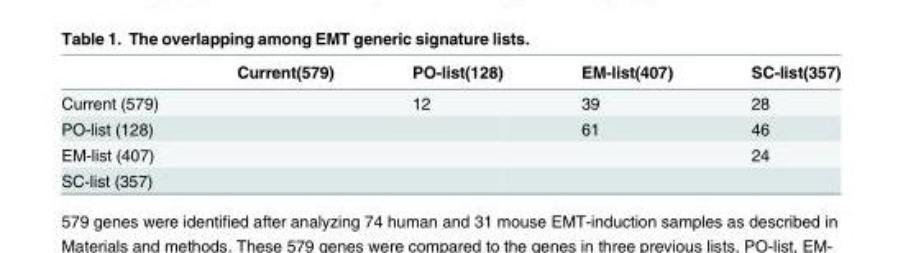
<table><thead><tr><td></td><td>Current(579)</td><td>PO-list(128)</td><td>EM-list(407)</td><td>SC-list(357)</td></tr></thead><tbody><tr><td>Current (579)</td><td></td><td>12</td><td>39</td><td>28</td></tr><tr><td>PO-list (128)</td><td></td><td></td><td>61</td><td>46</td></tr><tr><td>EM-list (407)</td><td></td><td></td><td></td><td>24</td></tr><tr><td>SC-list (357)</td><td></td><td></td><td></td><td></td></tr></tbody></table>